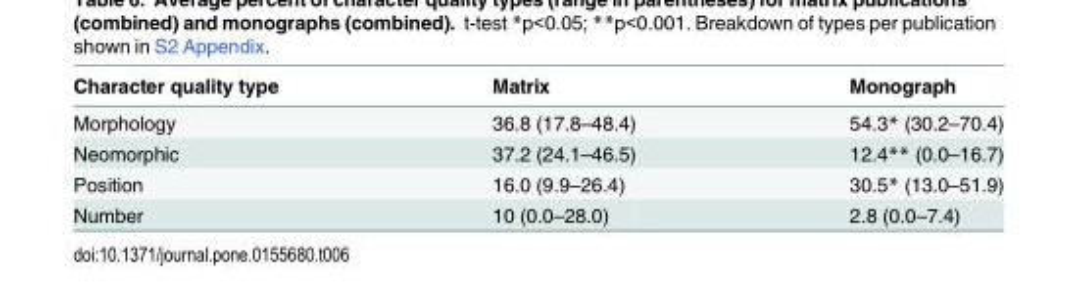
<table><thead><tr><td>Character quality type</td><td>Matrix</td><td>Monograph</td></tr></thead><tbody><tr><td>Morphology</td><td>36.8 (17.8–48.4)</td><td>54.3* (30.2–70.4)</td></tr><tr><td>Neomorphic</td><td>37.2 (24.1–46.5)</td><td>12.4** (0.0–16.7)</td></tr><tr><td>Position</td><td>16.0 (9.9–26.4)</td><td>30.5* (13.0–51.9)</td></tr><tr><td>Number</td><td>10 (0.0–28.0)</td><td>2.8 (0.0–7.4)</td></tr></tbody></table>